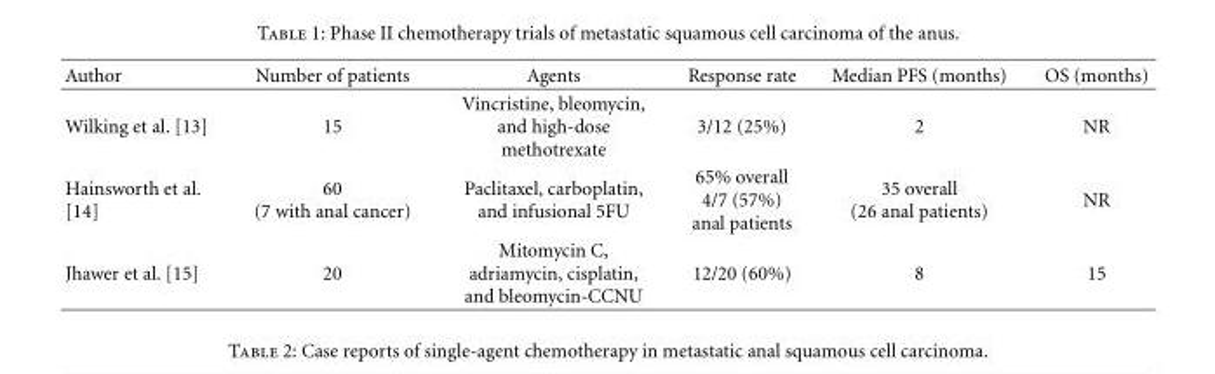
<table><thead><tr><td>Author</td><td>Number of patients</td><td>Agents</td><td>Response rate</td><td>Median PFS (months)</td><td>OS (months)</td></tr></thead><tbody><tr><td>Wilking et al. [13]</td><td>15</td><td>Vincristine, bleomycin, and high-dose methotrexate</td><td>3/12 (25%)</td><td>2</td><td>NR</td></tr><tr><td>Hainsworth et al. [14]</td><td>60 (7 with anal cancer)</td><td>Paclitaxel, carboplatin, and infusional 5FU</td><td>65% overall 4/7 (57%) anal patients</td><td>35 overall (26 anal patients)</td><td>NR</td></tr><tr><td>Jhawer et al. [15]</td><td>20</td><td>Mitomycin C, adriamycin, cisplatin, and bleomycin-CCNU</td><td>12/20 (60%)</td><td>8</td><td>15</td></tr></tbody></table>